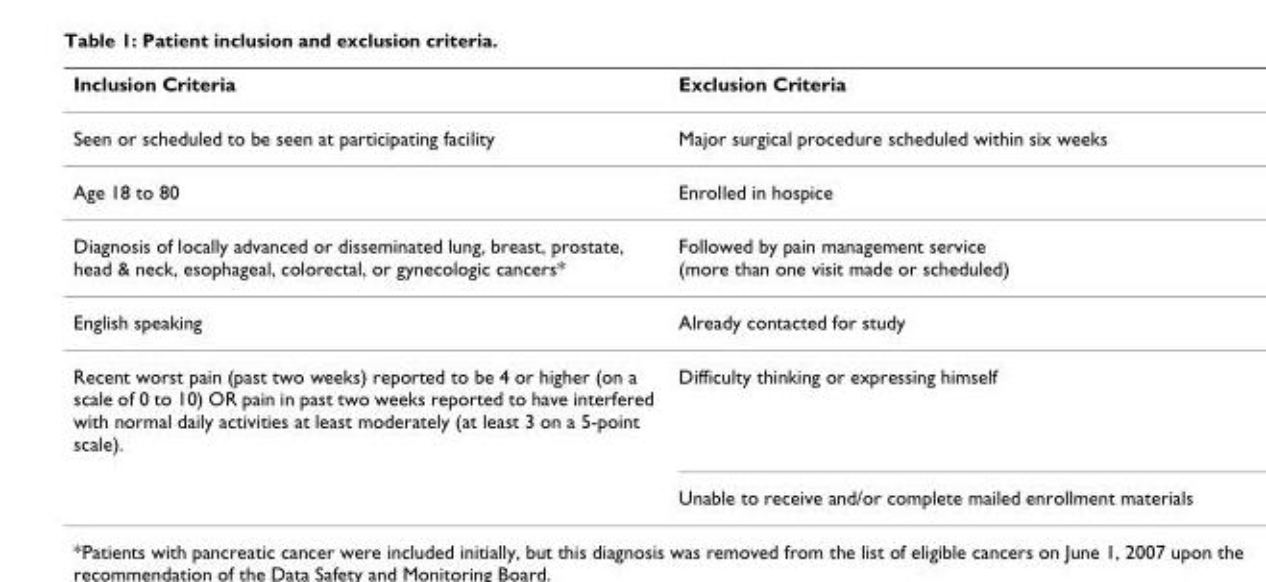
<table><thead><tr><td>Inclusion Criteria</td><td>Exclusion Criteria</td></tr></thead><tbody><tr><td>Seen or scheduled to be seen at participating facility</td><td>Major surgical procedure scheduled within six weeks</td></tr><tr><td>Age 18 to 80</td><td>Enrolled in hospice</td></tr><tr><td>Diagnosis of locally advanced or disseminated lung, breast, prostate, head &amp; neck, esophageal, colorectal, or gynecologic cancers*</td><td>Followed by pain management service (more than one visit made or scheduled)</td></tr><tr><td>English speaking</td><td>Already contacted for study</td></tr><tr><td rowspan="2">Recent worst pain (past two weeks) reported to be 4 or higher (on a scale of 0 to 10) OR pain in past two weeks reported to have interfered with normal daily activities at least moderately (at least 3 on a 5-point scale).</td><td>Difficulty thinking or expressing himself</td></tr><tr><td>Unable to receive and/or complete mailed enrollment materials</td></tr></tbody></table>